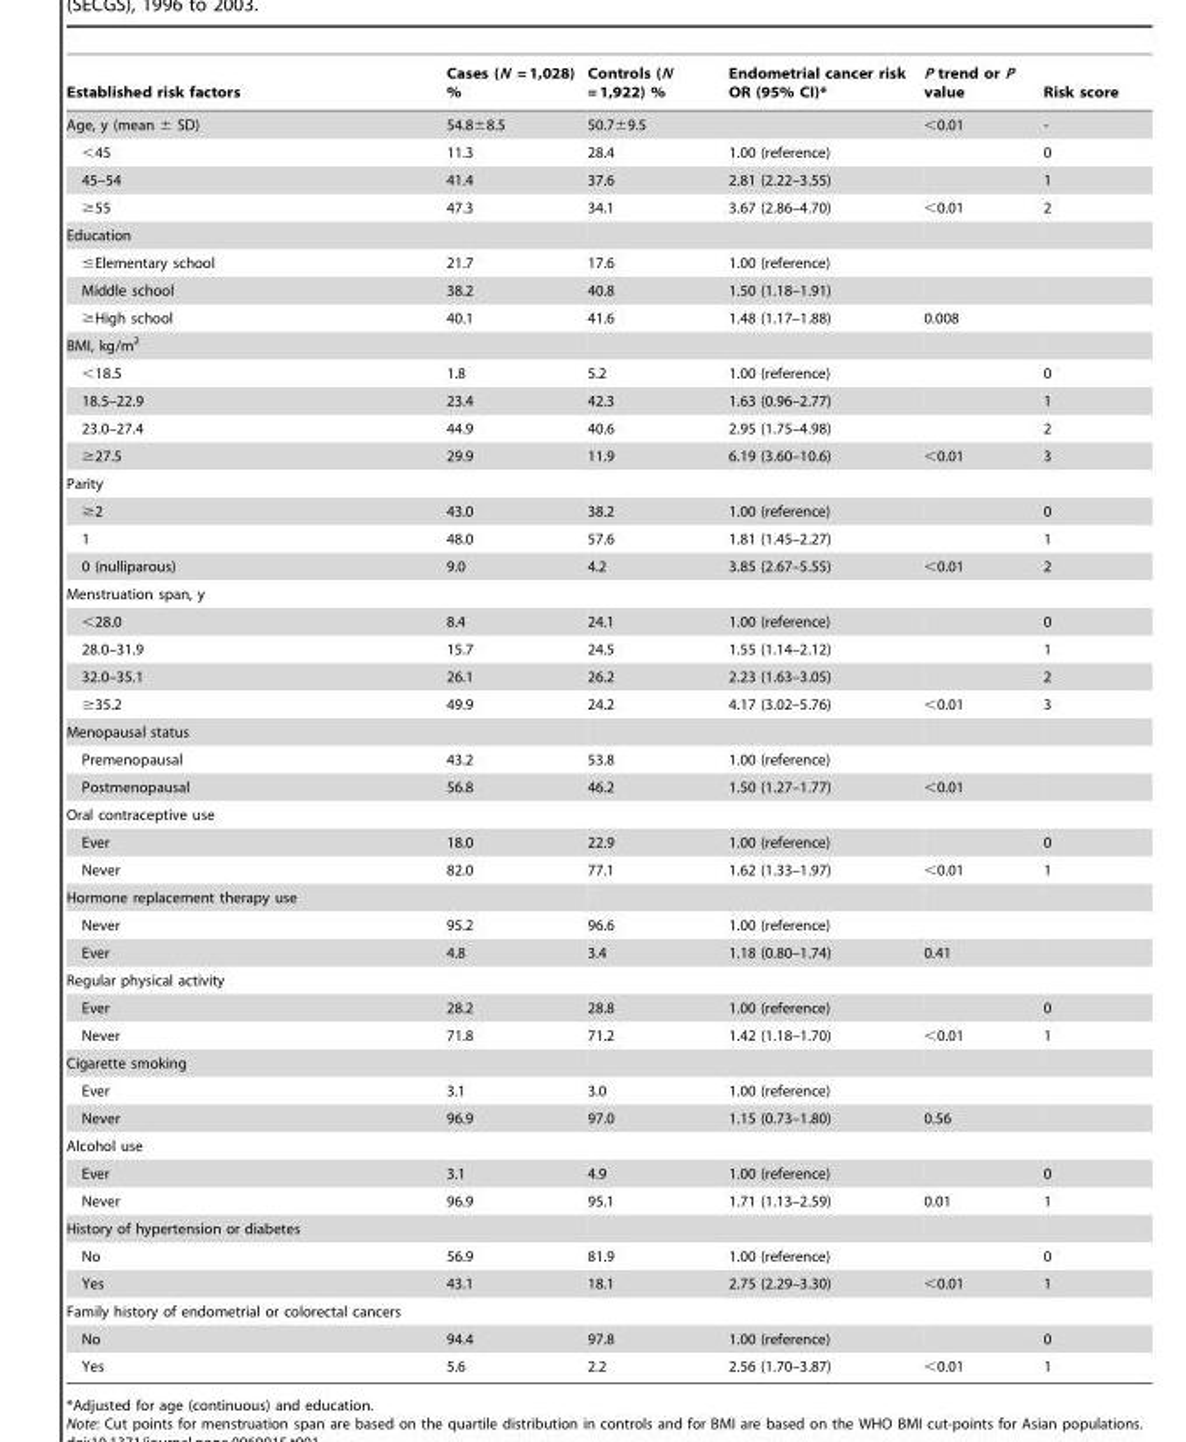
<table><thead><tr><td>Established risk factors</td><td>Cases (N = 1,028) %</td><td>Controls (N = 1,922) %</td><td>Endometrial cancer risk OR (95% CI)*</td><td>P trend or P value</td><td>Risk score</td></tr></thead><tbody><tr><td>Age, y (mean ± SD)</td><td>54.8±8.5</td><td>50.7±9.5</td><td></td><td>&lt;0.01</td><td>-</td></tr><tr><td>&lt;45</td><td>11.3</td><td>28.4</td><td>1.00 (reference)</td><td></td><td>0</td></tr><tr><td>45–54</td><td>41.4</td><td>37.6</td><td>2.81 (2.22–3.55)</td><td></td><td>1</td></tr><tr><td>≥55</td><td>47.3</td><td>34.1</td><td>3.67 (2.86–4.70)</td><td>&lt;0.01</td><td>2</td></tr><tr><td colspan="6">Education</td></tr><tr><td>≤Elementary school</td><td>21.7</td><td>17.6</td><td>1.00 (reference)</td><td></td><td></td></tr><tr><td>Middle school</td><td>38.2</td><td>40.8</td><td>1.50 (1.18–1.91)</td><td></td><td></td></tr><tr><td>≥High school</td><td>40.1</td><td>41.6</td><td>1.48 (1.17–1.88)</td><td>0.008</td><td></td></tr><tr><td colspan="6">BMI, kg/m<sup>2</sup></td></tr><tr><td>&lt;18.5</td><td>1.8</td><td>5.2</td><td>1.00 (reference)</td><td></td><td>0</td></tr><tr><td>18.5–22.9</td><td>23.4</td><td>42.3</td><td>1.63 (0.96–2.77)</td><td></td><td>1</td></tr><tr><td>23.0–27.4</td><td>44.9</td><td>40.6</td><td>2.95 (1.75–4.98)</td><td></td><td>2</td></tr><tr><td>≥27.5</td><td>29.9</td><td>11.9</td><td>6.19 (3.60–10.6)</td><td>&lt;0.01</td><td>3</td></tr><tr><td colspan="6">Parity</td></tr><tr><td>≥2</td><td>43.0</td><td>38.2</td><td>1.00 (reference)</td><td></td><td>0</td></tr><tr><td>1</td><td>48.0</td><td>57.6</td><td>1.81 (1.45–2.27)</td><td></td><td>1</td></tr><tr><td>0 (nulliparous)</td><td>9.0</td><td>4.2</td><td>3.85 (2.67–5.55)</td><td>&lt;0.01</td><td>2</td></tr><tr><td colspan="6">Menstruation span, y</td></tr><tr><td>&lt;28.0</td><td>8.4</td><td>24.1</td><td>1.00 (reference)</td><td></td><td>0</td></tr><tr><td>28.0–31.9</td><td>15.7</td><td>24.5</td><td>1.55 (1.14–2.12)</td><td></td><td>1</td></tr><tr><td>32.0–35.1</td><td>26.1</td><td>26.2</td><td>2.23 (1.63–3.05)</td><td></td><td>2</td></tr><tr><td>≥35.2</td><td>49.9</td><td>24.2</td><td>4.17 (3.02–5.76)</td><td>&lt;0.01</td><td>3</td></tr><tr><td colspan="6">Menopausal status</td></tr><tr><td>Premenopausal</td><td>43.2</td><td>53.8</td><td>1.00 (reference)</td><td></td><td></td></tr><tr><td>Postmenopausal</td><td>56.8</td><td>46.2</td><td>1.50 (1.27–1.77)</td><td>&lt;0.01</td><td></td></tr><tr><td colspan="6">Oral contraceptive use</td></tr><tr><td>Ever</td><td>18.0</td><td>22.9</td><td>1.00 (reference)</td><td></td><td>0</td></tr><tr><td>Never</td><td>82.0</td><td>77.1</td><td>1.62 (1.33–1.97)</td><td>&lt;0.01</td><td>1</td></tr><tr><td colspan="6">Hormone replacement therapy use</td></tr><tr><td>Never</td><td>95.2</td><td>96.6</td><td>1.00 (reference)</td><td></td><td></td></tr><tr><td>Ever</td><td>4.8</td><td>3.4</td><td>1.18 (0.80–1.74)</td><td>0.41</td><td></td></tr><tr><td colspan="6">Regular physical activity</td></tr><tr><td>Ever</td><td>28.2</td><td>28.8</td><td>1.00 (reference)</td><td></td><td>0</td></tr><tr><td>Never</td><td>71.8</td><td>71.2</td><td>1.42 (1.18–1.70)</td><td>&lt;0.01</td><td>1</td></tr><tr><td colspan="6">Cigarette smoking</td></tr><tr><td>Ever</td><td>3.1</td><td>3.0</td><td>1.00 (reference)</td><td></td><td></td></tr><tr><td>Never</td><td>96.9</td><td>97.0</td><td>1.15 (0.73–1.80)</td><td>0.56</td><td></td></tr><tr><td colspan="6">Alcohol use</td></tr><tr><td>Ever</td><td>3.1</td><td>4.9</td><td>1.00 (reference)</td><td></td><td>0</td></tr><tr><td>Never</td><td>96.9</td><td>95.1</td><td>1.71 (1.13–2.59)</td><td>0.01</td><td>1</td></tr><tr><td colspan="6">History of hypertension or diabetes</td></tr><tr><td>No</td><td>56.9</td><td>81.9</td><td>1.00 (reference)</td><td></td><td>0</td></tr><tr><td>Yes</td><td>43.1</td><td>18.1</td><td>2.75 (2.29–3.30)</td><td>&lt;0.01</td><td>1</td></tr><tr><td colspan="6">Family history of endometrial or colorectal cancers</td></tr><tr><td>No</td><td>94.4</td><td>97.8</td><td>1.00 (reference)</td><td></td><td>0</td></tr><tr><td>Yes</td><td>5.6</td><td>2.2</td><td>2.56 (1.70–3.87)</td><td>&lt;0.01</td><td>1</td></tr></tbody></table>